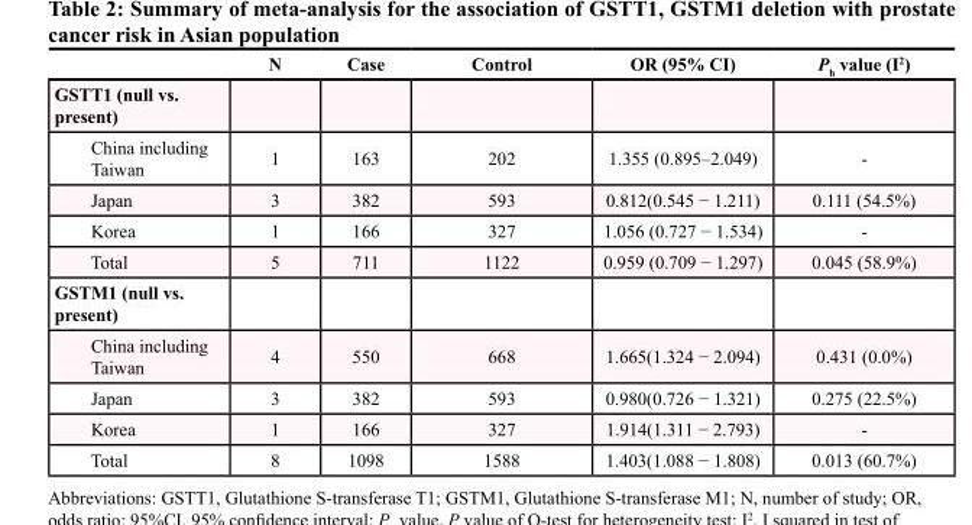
<table><thead><tr><td></td><td>N</td><td>Case</td><td>Control</td><td>OR (95% CI)</td><td>P<sub>h</sub> value (I<sup>2</sup>)</td></tr></thead><tbody><tr><td colspan="6">GSTT1 (null vs. present)</td></tr><tr><td>China including Taiwan</td><td>1</td><td>163</td><td>202</td><td>1.355 (0.895–2.049)</td><td>-</td></tr><tr><td>Japan</td><td>3</td><td>382</td><td>593</td><td>0.812(0.545 − 1.211)</td><td>0.111 (54.5%)</td></tr><tr><td>Korea</td><td>1</td><td>166</td><td>327</td><td>1.056 (0.727 − 1.534)</td><td>-</td></tr><tr><td>Total</td><td>5</td><td>711</td><td>1122</td><td>0.959 (0.709 − 1.297)</td><td>0.045 (58.9%)</td></tr><tr><td colspan="6">GSTM1 (null vs. present)</td></tr><tr><td>China including Taiwan</td><td>4</td><td>550</td><td>668</td><td>1.665(1.324 − 2.094)</td><td>0.431 (0.0%)</td></tr><tr><td>Japan</td><td>3</td><td>382</td><td>593</td><td>0.980(0.726 − 1.321)</td><td>0.275 (22.5%)</td></tr><tr><td>Korea</td><td>1</td><td>166</td><td>327</td><td>1.914(1.311 − 2.793)</td><td>-</td></tr><tr><td>Total</td><td>8</td><td>1098</td><td>1588</td><td>1.403(1.088 − 1.808)</td><td>0.013 (60.7%)</td></tr></tbody></table>